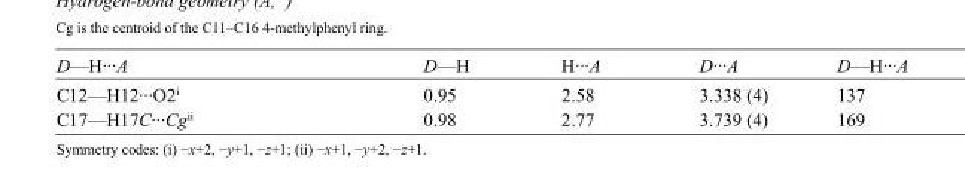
<table><tbody><tr><td>D—H···A</td><td>D—H</td><td>H···A</td><td>D···A</td><td>D—H···A</td></tr><tr><td>C12—H12···O2<sup>i</sup></td><td>0.95</td><td>2.58</td><td>3.338 (4)</td><td>137</td></tr><tr><td>C17—H17C···Cg<sup>ii</sup></td><td>0.98</td><td>2.77</td><td>3.739 (4)</td><td>169</td></tr></tbody></table>